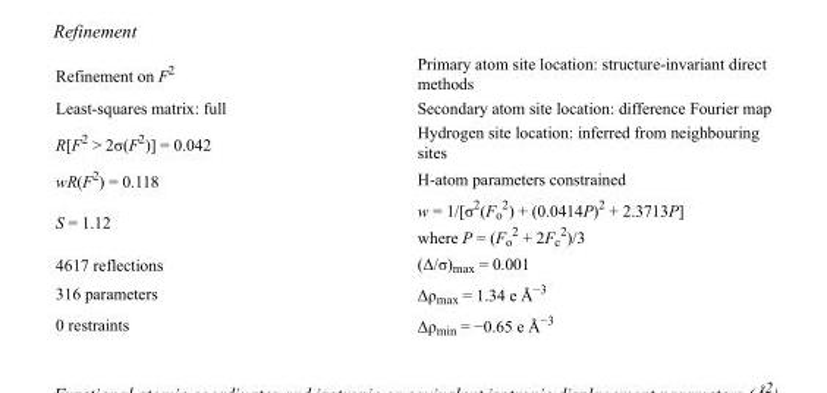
<table><tbody><tr><td>Refinement on F<sup>2</sup></td><td>Primary atom site location: structure-invariant direct methods</td></tr><tr><td>Least-squares matrix: full</td><td>Secondary atom site location: difference Fourier map</td></tr><tr><td>R[F<sup>2</sup> &gt; 2σ(F<sup>2</sup>)] = 0.042</td><td>Hydrogen site location: inferred from neighbouring sites</td></tr><tr><td>wR(F<sup>2</sup>) = 0.118</td><td>H-atom parameters constrained</td></tr><tr><td>S = 1.12</td><td>w = 1/[σ<sup>2</sup>(F<sub>o</sub> <sup>2</sup>) + (0.0414P)<sup>2</sup> + 2.3713P] where P = (F<sub>o</sub> <sup>2</sup> + 2F<sub>c</sub> <sup>2</sup>)/3</td></tr><tr><td>4617 reflections</td><td>(Δ/σ)<sub>max</sub> = 0.001</td></tr><tr><td>316 parameters</td><td>Δρ<sub>max</sub> = 1.34 e Å<sup>−3</sup></td></tr><tr><td>0 restraints</td><td>Δρ<sub>min</sub> = −0.65 e Å<sup>−3</sup></td></tr></tbody></table>